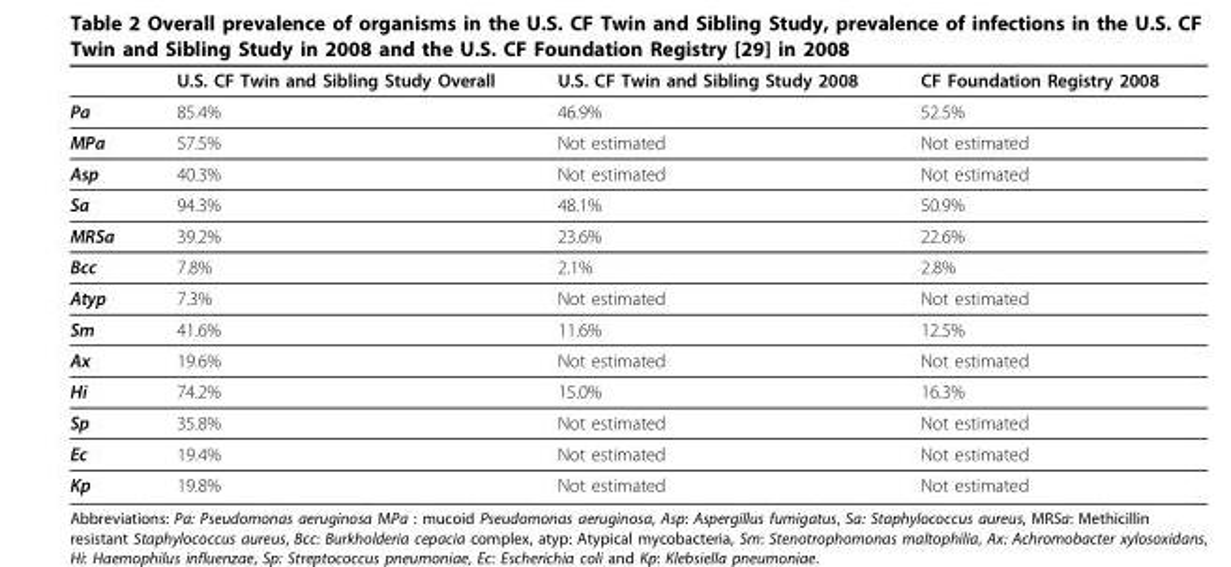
<table><thead><tr><td></td><td>U.S. CF Twin and Sibling Study Overall</td><td>U.S. CF Twin and Sibling Study 2008</td><td>CF Foundation Registry 2008</td></tr></thead><tbody><tr><td>Pa</td><td>85.4%</td><td>46.9%</td><td>52.5%</td></tr><tr><td>MPa</td><td>57.5%</td><td>Not estimated</td><td>Not estimated</td></tr><tr><td>Asp</td><td>40.3%</td><td>Not estimated</td><td>Not estimated</td></tr><tr><td>Sa</td><td>94.3%</td><td>48.1%</td><td>50.9%</td></tr><tr><td>MRSa</td><td>39.2%</td><td>23.6%</td><td>22.6%</td></tr><tr><td>Bcc</td><td>7.8%</td><td>2.1%</td><td>2.8%</td></tr><tr><td>Atyp</td><td>7.3%</td><td>Not estimated</td><td>Not estimated</td></tr><tr><td>Sm</td><td>41.6%</td><td>11.6%</td><td>12.5%</td></tr><tr><td>Ax</td><td>19.6%</td><td>Not estimated</td><td>Not estimated</td></tr><tr><td>Hi</td><td>74.2%</td><td>15.0%</td><td>16.3%</td></tr><tr><td>Sp</td><td>35.8%</td><td>Not estimated</td><td>Not estimated</td></tr><tr><td>Ec</td><td>19.4%</td><td>Not estimated</td><td>Not estimated</td></tr><tr><td>Kp</td><td>19.8%</td><td>Not estimated</td><td>Not estimated</td></tr></tbody></table>